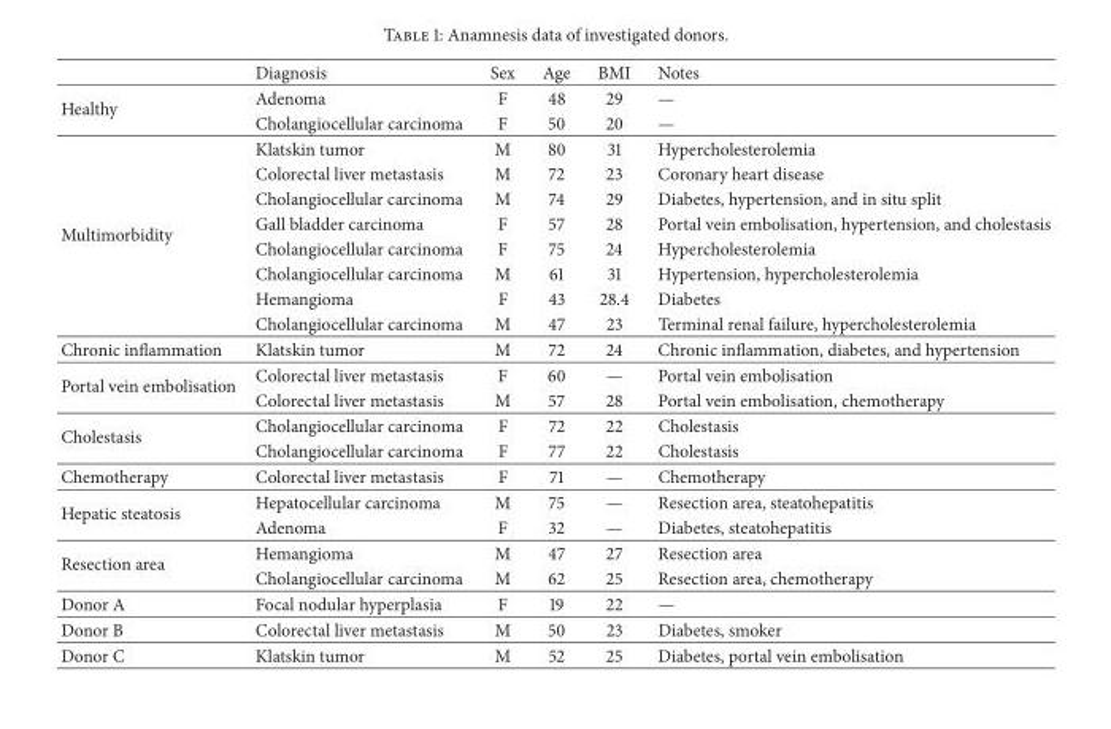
<table><thead><tr><td></td><td>Diagnosis</td><td>Sex</td><td>Age</td><td>BMI</td><td>Notes</td></tr></thead><tbody><tr><td rowspan="2">Healthy</td><td>Adenoma</td><td>F</td><td>48</td><td>29</td><td>—</td></tr><tr><td>Cholangiocellular carcinoma</td><td>F</td><td>50</td><td>20</td><td>—</td></tr><tr><td rowspan="8">Multimorbidity</td><td>Klatskin tumor</td><td>M</td><td>80</td><td>31</td><td>Hypercholesterolemia</td></tr><tr><td>Colorectal liver metastasis</td><td>M</td><td>72</td><td>23</td><td>Coronary heart disease</td></tr><tr><td>Cholangiocellular carcinoma</td><td>M</td><td>74</td><td>29</td><td>Diabetes, hypertension, and in situ split</td></tr><tr><td>Gall bladder carcinoma</td><td>F</td><td>57</td><td>28</td><td>Portal vein embolisation, hypertension, and cholestasis</td></tr><tr><td>Cholangiocellular carcinoma</td><td>F</td><td>75</td><td>24</td><td>Hypercholesterolemia</td></tr><tr><td>Cholangiocellular carcinoma</td><td>M</td><td>61</td><td>31</td><td>Hypertension, hypercholesterolemia</td></tr><tr><td>Hemangioma</td><td>F</td><td>43</td><td>28.4</td><td>Diabetes</td></tr><tr><td>Cholangiocellular carcinoma</td><td>M</td><td>47</td><td>23</td><td>Terminal renal failure, hypercholesterolemia</td></tr><tr><td>Chronic inflammation</td><td>Klatskin tumor</td><td>M</td><td>72</td><td>24</td><td>Chronic inflammation, diabetes, and hypertension</td></tr><tr><td rowspan="2">Portal vein embolisation</td><td>Colorectal liver metastasis</td><td>F</td><td>60</td><td>—</td><td>Portal vein embolisation</td></tr><tr><td>Colorectal liver metastasis</td><td>M</td><td>57</td><td>28</td><td>Portal vein embolisation, chemotherapy</td></tr><tr><td rowspan="2">Cholestasis</td><td>Cholangiocellular carcinoma</td><td>F</td><td>72</td><td>22</td><td>Cholestasis</td></tr><tr><td>Cholangiocellular carcinoma</td><td>F</td><td>77</td><td>22</td><td>Cholestasis</td></tr><tr><td>Chemotherapy</td><td>Colorectal liver metastasis</td><td>F</td><td>71</td><td>—</td><td>Chemotherapy</td></tr><tr><td rowspan="2">Hepatic steatosis</td><td>Hepatocellular carcinoma</td><td>M</td><td>75</td><td>—</td><td>Resection area, steatohepatitis</td></tr><tr><td>Adenoma</td><td>F</td><td>32</td><td>—</td><td>Diabetes, steatohepatitis</td></tr><tr><td rowspan="2">Resection area</td><td>Hemangioma</td><td>M</td><td>47</td><td>27</td><td>Resection area</td></tr><tr><td>Cholangiocellular carcinoma</td><td>M</td><td>62</td><td>25</td><td>Resection area, chemotherapy</td></tr><tr><td>Donor A</td><td>Focal nodular hyperplasia</td><td>F</td><td>19</td><td>22</td><td>—</td></tr><tr><td>Donor B</td><td>Colorectal liver metastasis</td><td>M</td><td>50</td><td>23</td><td>Diabetes, smoker</td></tr><tr><td>Donor C</td><td>Klatskin tumor</td><td>M</td><td>52</td><td>25</td><td>Diabetes, portal vein embolisation</td></tr></tbody></table>